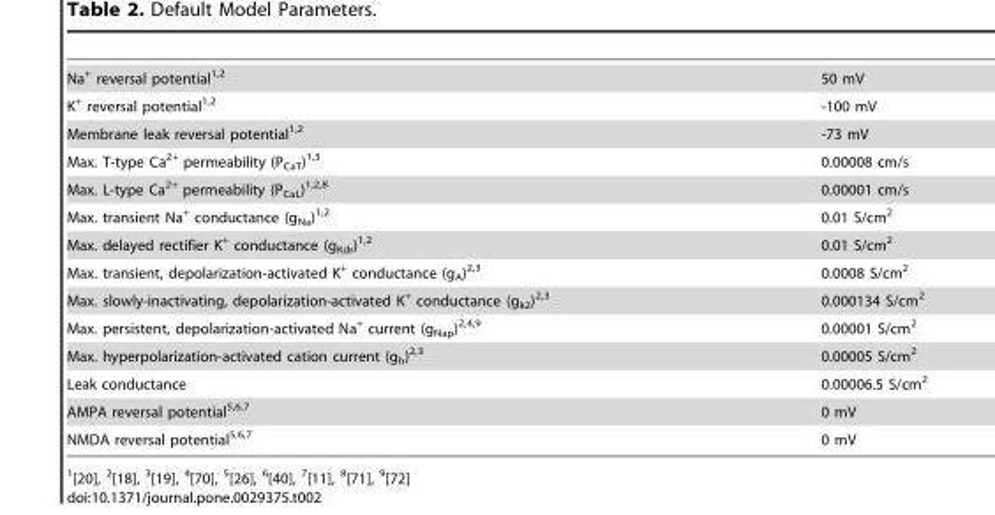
<table><tbody><tr><td>Na<sup>+</sup> reversal potential<sup>1,2</sup></td><td>50 mV</td></tr><tr><td>K<sup>+</sup> reversal potential<sup>1,2</sup></td><td>-100 mV</td></tr><tr><td>Membrane leak reversal potential<sup>1,2</sup></td><td>-73 mV</td></tr><tr><td>Max. T-type Ca<sup>2+</sup> permeability (P<sub>CaT</sub>)<sup>1,3</sup></td><td>0.00008 cm/s</td></tr><tr><td>Max. L-type Ca<sup>2+</sup> permeability (P<sub>CaL</sub>)<sup>1,2,8</sup></td><td>0.00001 cm/s</td></tr><tr><td>Max. transient Na<sup>+</sup> conductance (g<sub>Na</sub>)<sup>1,2</sup></td><td>0.01 S/cm<sup>2</sup></td></tr><tr><td>Max. delayed rectifier K<sup>+</sup> conductance (g<sub>Kdr</sub>)<sup>1,2</sup></td><td>0.01 S/cm<sup>2</sup></td></tr><tr><td>Max. transient, depolarization-activated K<sup>+</sup> conductance (g<sub>A</sub>)<sup>2,3</sup></td><td>0.0008 S/cm<sup>2</sup></td></tr><tr><td>Max. slowly-inactivating, depolarization-activated K<sup>+</sup> conductance (g<sub>k2</sub>)<sup>2,3</sup></td><td>0.000134 S/cm<sup>2</sup></td></tr><tr><td>Max. persistent, depolarization-activated Na<sup>+</sup> current (g<sub>Nap</sub>)<sup>2,4,9</sup></td><td>0.00001 S/cm<sup>2</sup></td></tr><tr><td>Max. hyperpolarization-activated cation current (g<sub>h</sub>)<sup>2,3</sup></td><td>0.00005 S/cm<sup>2</sup></td></tr><tr><td>Leak conductance</td><td>0.00006.5 S/cm<sup>2</sup></td></tr><tr><td>AMPA reversal potential<sup>5,6,7</sup></td><td>0 mV</td></tr><tr><td>NMDA reversal potential<sup>5,6,7</sup></td><td>0 mV</td></tr></tbody></table>